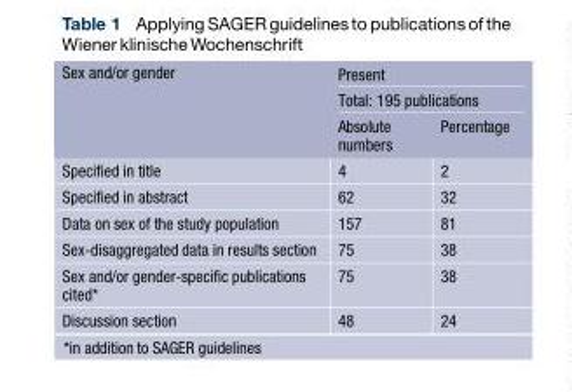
<table><thead><tr><td rowspan="3">Sex and/or gender</td><td rowspan="2" colspan="2">Present Total: 195 publications</td></tr><tr></tr><tr><td>Absolute numbers</td><td>Percentage</td></tr></thead><tbody><tr><td>Specified in title</td><td>4</td><td>2</td></tr><tr><td>Specified in abstract</td><td>62</td><td>32</td></tr><tr><td>Data on sex of the study population</td><td>157</td><td>81</td></tr><tr><td>Sex-disaggregated data in results section</td><td>75</td><td>38</td></tr><tr><td>Sex and/or gender-specific publications cited*</td><td>75</td><td>38</td></tr><tr><td>Discussion section</td><td>48</td><td>24</td></tr></tbody></table>